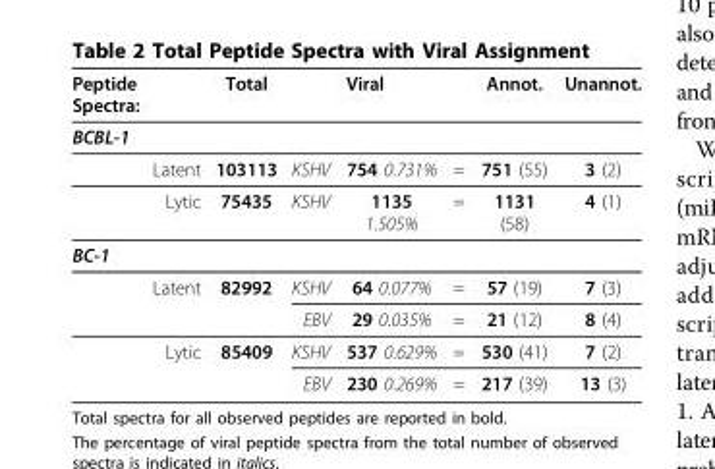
<table><thead><tr><td rowspan="2">Peptide Spectra: BCBL-1</td><td rowspan="2">Total</td><td colspan="2">Viral</td><td rowspan="2"></td><td rowspan="2">Annot.</td><td rowspan="2">Unannot.</td></tr><tr><td></td><td></td></tr></thead><tbody><tr><td>Latent</td><td>103113</td><td>KSHV</td><td>754 0.731%</td><td>=</td><td>751 (55)</td><td>3 (2)</td></tr><tr><td>Lytic</td><td>75435</td><td>KSHV</td><td>1135 1.505%</td><td>=</td><td>1131 (58)</td><td>4 (1)</td></tr><tr><td colspan="7">BC-1</td></tr><tr><td rowspan="2">Latent</td><td>82992</td><td>KSHV</td><td>64 0.077%</td><td>=</td><td>57 (19)</td><td>7 (3)</td></tr><tr><td></td><td>EBV</td><td>29 0.035%</td><td>=</td><td>21 (12)</td><td>8 (4)</td></tr><tr><td rowspan="2">Lytic</td><td>85409</td><td>KSHV</td><td>537 0.629%</td><td>=</td><td>530 (41)</td><td>7 (2)</td></tr><tr><td></td><td>EBV</td><td>230 0.269%</td><td>=</td><td>217 (39)</td><td>13 (3)</td></tr></tbody></table>